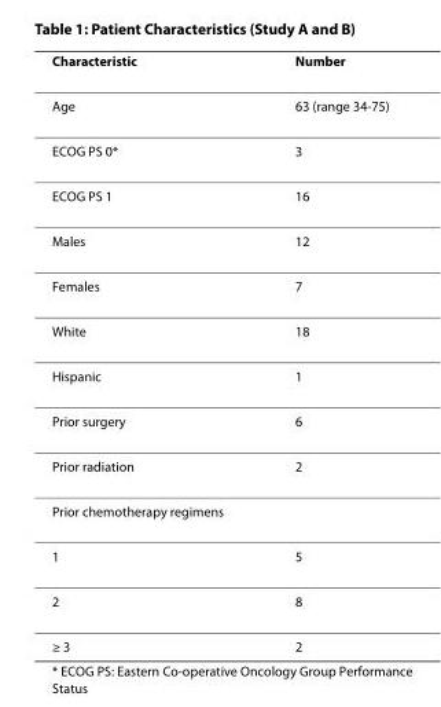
<table><thead><tr><td>Characteristic</td><td>Number</td></tr></thead><tbody><tr><td>Age</td><td>63 (range 34-75)</td></tr><tr><td>ECOG PS 0*</td><td>3</td></tr><tr><td>ECOG PS 1</td><td>16</td></tr><tr><td>Males</td><td>12</td></tr><tr><td>Females</td><td>7</td></tr><tr><td>White</td><td>18</td></tr><tr><td>Hispanic</td><td>1</td></tr><tr><td>Prior surgery</td><td>6</td></tr><tr><td>Prior radiation</td><td>2</td></tr><tr><td colspan="2">Prior chemotherapy regimens</td></tr><tr><td>1</td><td>5</td></tr><tr><td>2</td><td>8</td></tr><tr><td>≥ 3</td><td>2</td></tr></tbody></table>